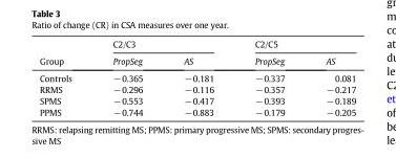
<table><thead><tr><td rowspan="2">Group</td><td colspan="2">C2/C3</td><td colspan="2">C2/C5</td></tr><tr><td>PropSeg</td><td>AS</td><td>PropSeg</td><td>AS</td></tr></thead><tbody><tr><td>Controls</td><td>−0.365</td><td>−0.181</td><td>−0.337</td><td>0.081</td></tr><tr><td>RRMS</td><td>−0.296</td><td>−0.116</td><td>−0.357</td><td>−0.217</td></tr><tr><td>SPMS</td><td>−0.553</td><td>−0.417</td><td>−0.393</td><td>−0.189</td></tr><tr><td>PPMS</td><td>−0.744</td><td>−0.883</td><td>−0.179</td><td>−0.205</td></tr></tbody></table>